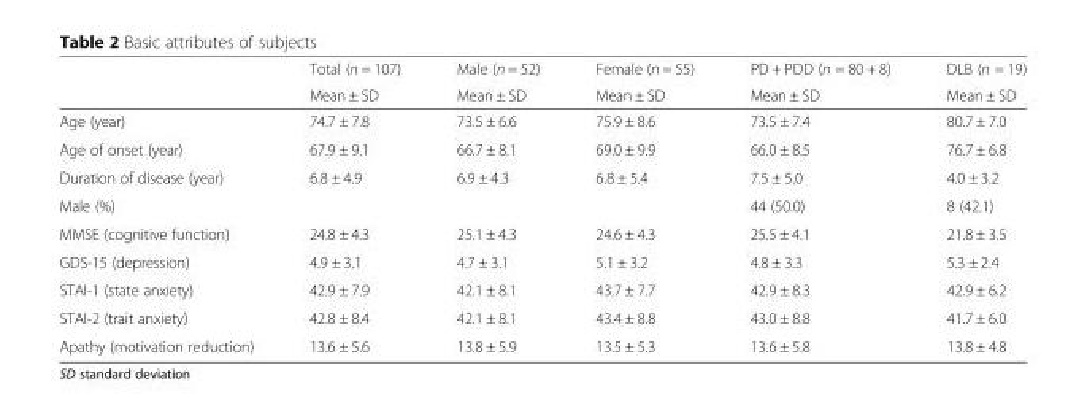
<table><thead><tr><td rowspan="2"></td><td rowspan="2">Total (n = 107) Mean ± SD</td><td rowspan="2">Male (n = 52) Mean ± SD</td><td rowspan="2">Female (n = 55) Mean ± SD</td><td rowspan="2">PD + PDD (n = 80 + 8) Mean ± SD</td><td rowspan="2">DLB (n = 19) Mean ± SD</td></tr><tr></tr></thead><tbody><tr><td>Age (year)</td><td>74.7 ± 7.8</td><td>73.5 ± 6.6</td><td>75.9 ± 8.6</td><td>73.5 ± 7.4</td><td>80.7 ± 7.0</td></tr><tr><td>Age of onset (year)</td><td>67.9 ± 9.1</td><td>66.7 ± 8.1</td><td>69.0 ± 9.9</td><td>66.0 ± 8.5</td><td>76.7 ± 6.8</td></tr><tr><td>Duration of disease (year)</td><td>6.8 ± 4.9</td><td>6.9 ± 4.3</td><td>6.8 ± 5.4</td><td>7.5 ± 5.0</td><td>4.0 ± 3.2</td></tr><tr><td>Male (%)</td><td></td><td></td><td></td><td>44 (50.0)</td><td>8 (42.1)</td></tr><tr><td>MMSE (cognitive function)</td><td>24.8 ± 4.3</td><td>25.1 ± 4.3</td><td>24.6 ± 4.3</td><td>25.5 ± 4.1</td><td>21.8 ± 3.5</td></tr><tr><td>GDS-15 (depression)</td><td>4.9 ± 3.1</td><td>4.7 ± 3.1</td><td>5.1 ± 3.2</td><td>4.8 ± 3.3</td><td>5.3 ± 2.4</td></tr><tr><td>STAI-1 (state anxiety)</td><td>42.9 ± 7.9</td><td>42.1 ± 8.1</td><td>43.7 ± 7.7</td><td>42.9 ± 8.3</td><td>42.9 ± 6.2</td></tr><tr><td>STAI-2 (trait anxiety)</td><td>42.8 ± 8.4</td><td>42.1 ± 8.1</td><td>43.4 ± 8.8</td><td>43.0 ± 8.8</td><td>41.7 ± 6.0</td></tr><tr><td>Apathy (motivation reduction)</td><td>13.6 ± 5.6</td><td>13.8 ± 5.9</td><td>13.5 ± 5.3</td><td>13.6 ± 5.8</td><td>13.8 ± 4.8</td></tr></tbody></table>